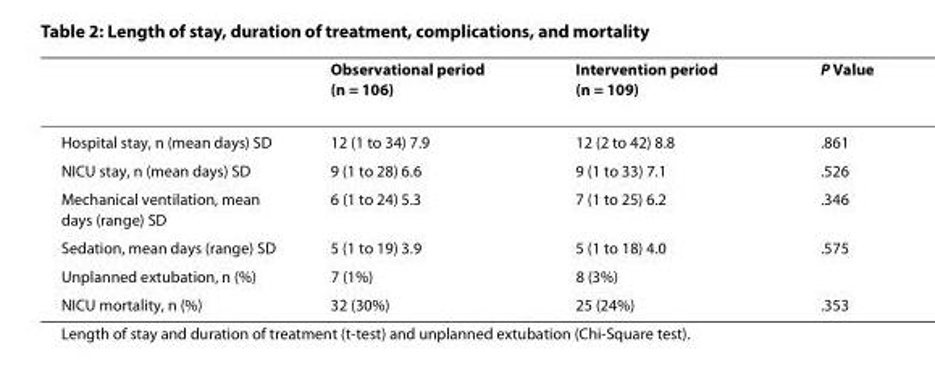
<table><thead><tr><td></td><td>Observational period (n = 106)</td><td>Intervention period (n = 109)</td><td>P Value</td></tr></thead><tbody><tr><td>Hospital stay, n (mean days) SD</td><td>12 (1 to 34) 7.9</td><td>12 (2 to 42) 8.8</td><td>.861</td></tr><tr><td>NICU stay, n (mean days) SD</td><td>9 (1 to 28) 6.6</td><td>9 (1 to 33) 7.1</td><td>.526</td></tr><tr><td>Mechanical ventilation, mean days (range) SD</td><td>6 (1 to 24) 5.3</td><td>7 (1 to 25) 6.2</td><td>.346</td></tr><tr><td>Sedation, mean days (range) SD</td><td>5 (1 to 19) 3.9</td><td>5 (1 to 18) 4.0</td><td>.575</td></tr><tr><td>Unplanned extubation, n (%)</td><td>7 (1%)</td><td>8 (3%)</td><td></td></tr><tr><td>NICU mortality, n (%)</td><td>32 (30%)</td><td>25 (24%)</td><td>.353</td></tr></tbody></table>